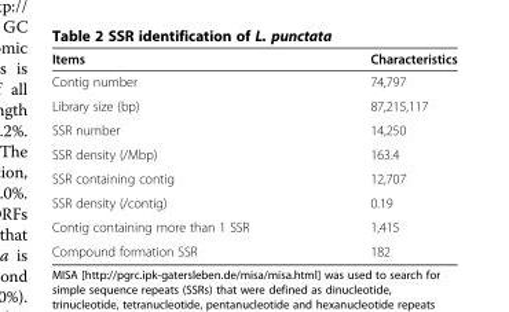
<table><thead><tr><td>Items</td><td>Characteristics</td></tr></thead><tbody><tr><td>Contig number</td><td>74,797</td></tr><tr><td>Library size (bp)</td><td>87,215,117</td></tr><tr><td>SSR number</td><td>14,250</td></tr><tr><td>SSR density (/Mbp)</td><td>163.4</td></tr><tr><td>SSR containing contig</td><td>12,707</td></tr><tr><td>SSR density (/contig)</td><td>0.19</td></tr><tr><td>Contig containing more than 1 SSR</td><td>1,415</td></tr><tr><td>Compound formation SSR</td><td>182</td></tr></tbody></table>